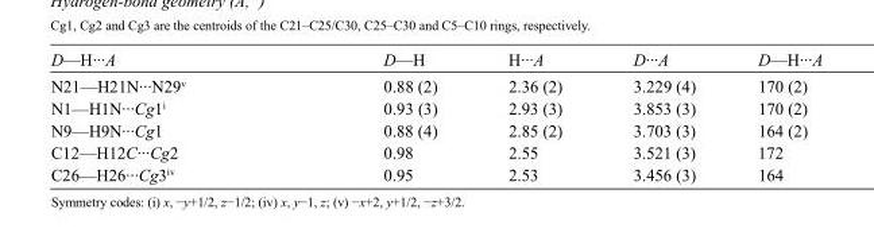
<table><tbody><tr><td>D—H···A</td><td>D—H</td><td>H···A</td><td>D···A</td><td>D—H···A</td></tr><tr><td>N21—H21N···N29<sup>v</sup></td><td>0.88 (2)</td><td>2.36 (2)</td><td>3.229 (4)</td><td>170 (2)</td></tr><tr><td>N1—H1N···Cg1<sup>i</sup></td><td>0.93 (3)</td><td>2.93 (3)</td><td>3.853 (3)</td><td>170 (2)</td></tr><tr><td>N9—H9N···Cg1</td><td>0.88 (4)</td><td>2.85 (2)</td><td>3.703 (3)</td><td>164 (2)</td></tr><tr><td>C12—H12C···Cg2</td><td>0.98</td><td>2.55</td><td>3.521 (3)</td><td>172</td></tr><tr><td>C26—H26···Cg3<sup>iv</sup></td><td>0.95</td><td>2.53</td><td>3.456 (3)</td><td>164</td></tr></tbody></table>